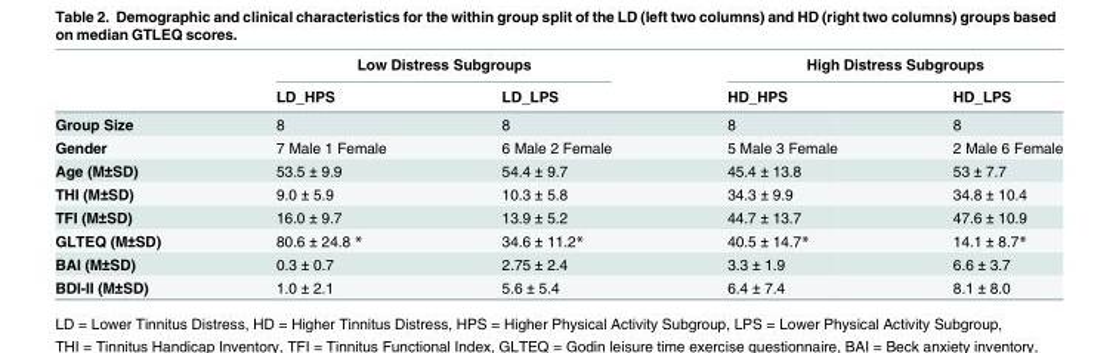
<table><thead><tr><td rowspan="2"></td><td colspan="2">Low Distress Subgroups</td><td colspan="2">High Distress Subgroups</td></tr><tr><td>LD_HPS</td><td>LD_LPS</td><td>HD_HPS</td><td>HD_LPS</td></tr></thead><tbody><tr><td>Group Size</td><td>8</td><td>8</td><td>8</td><td>8</td></tr><tr><td>Gender</td><td>7 Male 1 Female</td><td>6 Male 2 Female</td><td>5 Male 3 Female</td><td>2 Male 6 Female</td></tr><tr><td>Age (M±SD)</td><td>53.5 ± 9.9</td><td>54.4 ± 9.7</td><td>45.4 ± 13.8</td><td>53 ± 7.7</td></tr><tr><td>THI (M±SD)</td><td>9.0 ± 5.9</td><td>10.3 ± 5.8</td><td>34.3 ± 9.9</td><td>34.8 ± 10.4</td></tr><tr><td>TFI (M±SD)</td><td>16.0 ± 9.7</td><td>13.9 ± 5.2</td><td>44.7 ± 13.7</td><td>47.6 ± 10.9</td></tr><tr><td>GLTEQ (M±SD)</td><td>80.6 ± 24.8 *</td><td>34.6 ± 11.2*</td><td>40.5 ± 14.7*</td><td>14.1 ± 8.7*</td></tr><tr><td>BAI (M±SD)</td><td>0.3 ± 0.7</td><td>2.75 ± 2.4</td><td>3.3 ± 1.9</td><td>6.6 ± 3.7</td></tr><tr><td>BDI-II (M±SD)</td><td>1.0 ± 2.1</td><td>5.6 ± 5.4</td><td>6.4 ± 7.4</td><td>8.1 ± 8.0</td></tr></tbody></table>